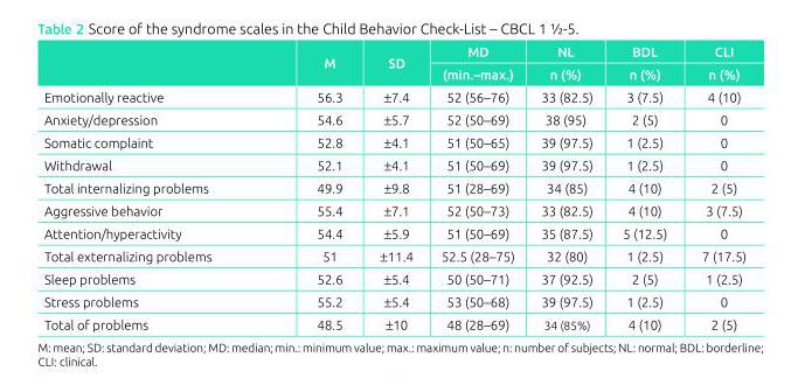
<table><thead><tr><td rowspan="2"></td><td rowspan="2">M</td><td rowspan="2">SD</td><td rowspan="2">MD (min.–max.)</td><td rowspan="2">NL n (%)</td><td rowspan="2">BDL n (%)</td><td rowspan="2">CLI n (%)</td></tr><tr></tr></thead><tbody><tr><td>Emotionally reactive</td><td>56.3</td><td>±7.4</td><td>52 (56–76)</td><td>33 (82.5)</td><td>3 (7.5)</td><td>4 (10)</td></tr><tr><td>Anxiety/depression</td><td>54.6</td><td>±5.7</td><td>52 (50–69)</td><td>38 (95)</td><td>2 (5)</td><td>0</td></tr><tr><td>Somatic complaint</td><td>52.8</td><td>±4.1</td><td>51 (50–65)</td><td>39 (97.5)</td><td>1 (2.5)</td><td>0</td></tr><tr><td>Withdrawal</td><td>52.1</td><td>±4.1</td><td>51 (50–69)</td><td>39 (97.5)</td><td>1 (2.5)</td><td>0</td></tr><tr><td>Total internalizing problems</td><td>49.9</td><td>±9.8</td><td>51 (28–69)</td><td>34 (85)</td><td>4 (10)</td><td>2 (5)</td></tr><tr><td>Aggressive behavior</td><td>55.4</td><td>±7.1</td><td>52 (50–73)</td><td>33 (82.5)</td><td>4 (10)</td><td>3 (7.5)</td></tr><tr><td>Attention/hyperactivity</td><td>54.4</td><td>±5.9</td><td>51 (50–69)</td><td>35 (87.5)</td><td>5 (12.5)</td><td>0</td></tr><tr><td>Total externalizing problems</td><td>51</td><td>±11.4</td><td>52.5 (28–75)</td><td>32 (80)</td><td>1 (2.5)</td><td>7 (17.5)</td></tr><tr><td>Sleep problems</td><td>52.6</td><td>±5.4</td><td>50 (50–71)</td><td>37 (92.5)</td><td>2 (5)</td><td>1 (2.5)</td></tr><tr><td>Stress problems</td><td>55.2</td><td>±5.4</td><td>53 (50–68)</td><td>39 (97.5)</td><td>1 (2.5)</td><td>0</td></tr><tr><td>Total of problems</td><td>48.5</td><td>±10</td><td>48 (28–69)</td><td>34 (85%)</td><td>4 (10)</td><td>2 (5)</td></tr></tbody></table>